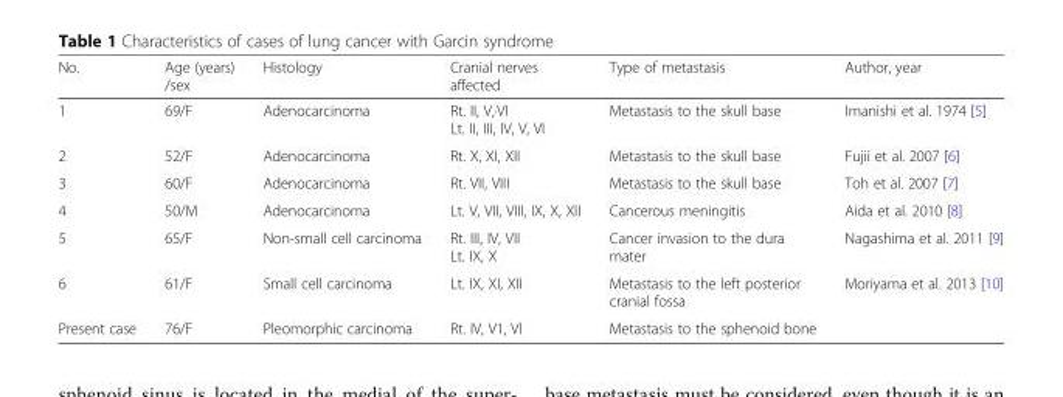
<table><thead><tr><td>No.</td><td>Age (years) /sex</td><td>Histology</td><td>Cranial nerves affected</td><td>Type of metastasis</td><td>Author, year</td></tr></thead><tbody><tr><td>1</td><td>69/F</td><td>Adenocarcinoma</td><td>Rt. II, V,·VI Lt. II, III, IV, V, VI</td><td>Metastasis to the skull base</td><td>Imanishi et al. 1974 [5]</td></tr><tr><td>2</td><td>52/F</td><td>Adenocarcinoma</td><td>Rt. X, XI, XII</td><td>Metastasis to the skull base</td><td>Fujii et al. 2007 [6]</td></tr><tr><td>3</td><td>60/F</td><td>Adenocarcinoma</td><td>Rt. VII, VIII</td><td>Metastasis to the skull base</td><td>Toh et al. 2007 [7]</td></tr><tr><td>4</td><td>50/M</td><td>Adenocarcinoma</td><td>Lt. V, VII, VIII, IX, X, XII</td><td>Cancerous meningitis</td><td>Aida et al. 2010 [8]</td></tr><tr><td>5</td><td>65/F</td><td>Non-small cell carcinoma</td><td>Rt. III, IV, VII Lt. IX, X</td><td>Cancer invasion to the dura mater</td><td>Nagashima et al. 2011 [9]</td></tr><tr><td>6</td><td>61/F</td><td>Small cell carcinoma</td><td>Lt. IX, XI, XII</td><td>Metastasis to the left posterior cranial fossa</td><td>Moriyama et al. 2013 [10]</td></tr><tr><td>Present case</td><td>76/F</td><td>Pleomorphic carcinoma</td><td>Rt. IV, V1, VI</td><td>Metastasis to the sphenoid bone</td><td></td></tr></tbody></table>